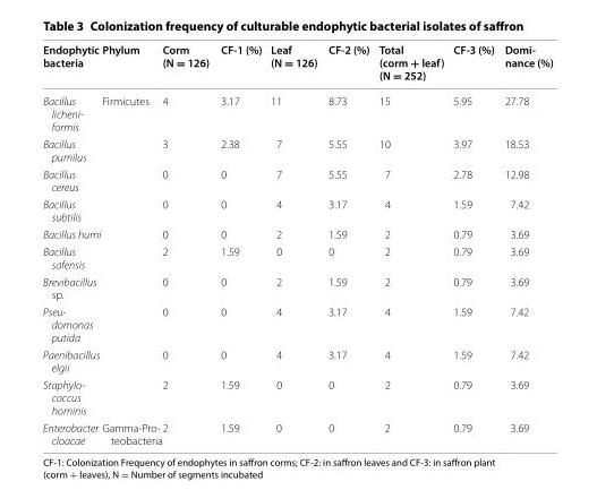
<table><thead><tr><td>Endophytic bacteria</td><td>Phylum</td><td>Corm (N = 126)</td><td>CF-1 (%)</td><td>Leaf (N = 126)</td><td>CF-2 (%)</td><td>Total (corm + leaf) (N = 252)</td><td>CF-3 (%)</td><td>Domi- nance (%)</td></tr></thead><tbody><tr><td>Bacillus licheni- formis</td><td rowspan="10">Firmicutes</td><td>4</td><td>3.17</td><td>11</td><td>8.73</td><td>15</td><td>5.95</td><td>27.78</td></tr><tr><td>Bacillus pumilus</td><td>3</td><td>2.38</td><td>7</td><td>5.55</td><td>10</td><td>3.97</td><td>18.53</td></tr><tr><td>Bacillus cereus</td><td>0</td><td>0</td><td>7</td><td>5.55</td><td>7</td><td>2.78</td><td>12.98</td></tr><tr><td>Bacillus subtilis</td><td>0</td><td>0</td><td>4</td><td>3.17</td><td>4</td><td>1.59</td><td>7.42</td></tr><tr><td>Bacillus humi</td><td>0</td><td>0</td><td>2</td><td>1.59</td><td>2</td><td>0.79</td><td>3.69</td></tr><tr><td>Bacillus safensis</td><td>2</td><td>1.59</td><td>0</td><td>0</td><td>2</td><td>0.79</td><td>3.69</td></tr><tr><td>Brevibacillus sp.</td><td>0</td><td>0</td><td>2</td><td>1.59</td><td>2</td><td>0.79</td><td>3.69</td></tr><tr><td>Pseu- domonas putida</td><td>0</td><td>0</td><td>4</td><td>3.17</td><td>4</td><td>1.59</td><td>7.42</td></tr><tr><td>Paenibacillus elgii</td><td>0</td><td>0</td><td>4</td><td>3.17</td><td>4</td><td>1.59</td><td>7.42</td></tr><tr><td>Staphylo- coccus hominis</td><td>2</td><td>1.59</td><td>0</td><td>0</td><td>2</td><td>0.79</td><td>3.69</td></tr><tr><td>Enterobacter cloacae</td><td>Gamma-Pro- teobacteria</td><td>2</td><td>1.59</td><td>0</td><td>0</td><td>2</td><td>0.79</td><td>3.69</td></tr></tbody></table>